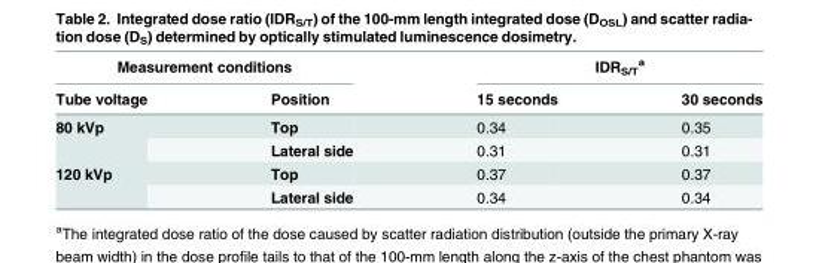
<table><thead><tr><td colspan="2">Measurement conditions</td><td colspan="2">IDR<sub>S/T</sub> <sup>a</sup></td></tr><tr><td>Tube voltage</td><td>Position</td><td>15 seconds</td><td>30 seconds</td></tr></thead><tbody><tr><td rowspan="2">80 kVp</td><td>Top</td><td>0.34</td><td>0.35</td></tr><tr><td>Lateral side</td><td>0.31</td><td>0.31</td></tr><tr><td rowspan="2">120 kVp</td><td>Top</td><td>0.37</td><td>0.37</td></tr><tr><td>Lateral side</td><td>0.34</td><td>0.34</td></tr></tbody></table>